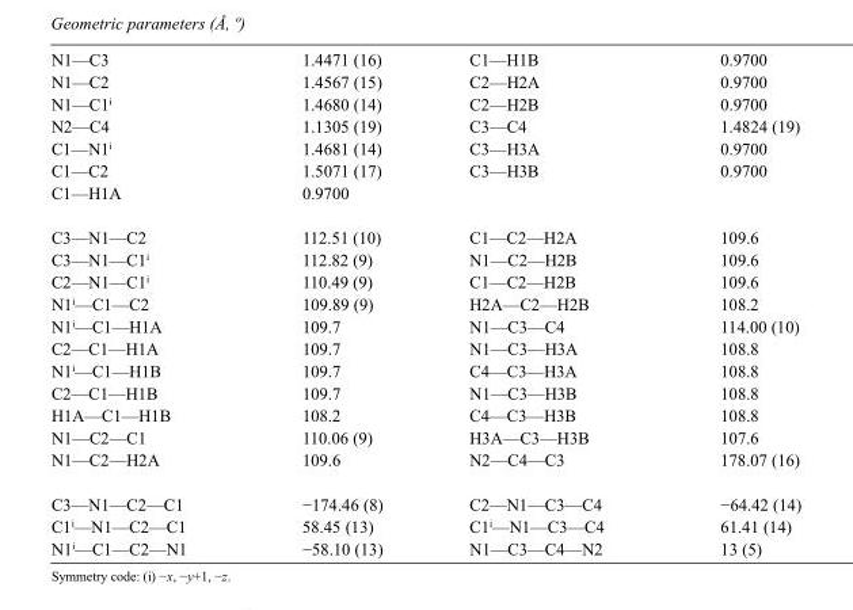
<table><tbody><tr><td>N1—C3</td><td>1.4471 (16)</td><td>C1—H1B</td><td>0.9700</td></tr><tr><td>N1—C2</td><td>1.4567 (15)</td><td>C2—H2A</td><td>0.9700</td></tr><tr><td>N1—C1<sup>i</sup></td><td>1.4680 (14)</td><td>C2—H2B</td><td>0.9700</td></tr><tr><td>N2—C4</td><td>1.1305 (19)</td><td>C3—C4</td><td>1.4824 (19)</td></tr><tr><td>C1—N1<sup>i</sup></td><td>1.4681 (14)</td><td>C3—H3A</td><td>0.9700</td></tr><tr><td>C1—C2</td><td>1.5071 (17)</td><td>C3—H3B</td><td>0.9700</td></tr><tr><td>C1—H1A</td><td>0.9700</td><td></td><td></td></tr><tr><td>C3—N1—C2</td><td>112.51 (10)</td><td>C1—C2—H2A</td><td>109.6</td></tr><tr><td>C3—N1—C1<sup>i</sup></td><td>112.82 (9)</td><td>N1—C2—H2B</td><td>109.6</td></tr><tr><td>C2—N1—C1<sup>i</sup></td><td>110.49 (9)</td><td>C1—C2—H2B</td><td>109.6</td></tr><tr><td>N1<sup>i</sup>—C1—C2</td><td>109.89 (9)</td><td>H2A—C2—H2B</td><td>108.2</td></tr><tr><td>N1<sup>i</sup>—C1—H1A</td><td>109.7</td><td>N1—C3—C4</td><td>114.00 (10)</td></tr><tr><td>C2—C1—H1A</td><td>109.7</td><td>N1—C3—H3A</td><td>108.8</td></tr><tr><td>N1<sup>i</sup>—C1—H1B</td><td>109.7</td><td>C4—C3—H3A</td><td>108.8</td></tr><tr><td>C2—C1—H1B</td><td>109.7</td><td>N1—C3—H3B</td><td>108.8</td></tr><tr><td>H1A—C1—H1B</td><td>108.2</td><td>C4—C3—H3B</td><td>108.8</td></tr><tr><td>N1—C2—C1</td><td>110.06 (9)</td><td>H3A—C3—H3B</td><td>107.6</td></tr><tr><td>N1—C2—H2A</td><td>109.6</td><td>N2—C4—C3</td><td>178.07 (16)</td></tr><tr><td>C3—N1—C2—C1</td><td>−174.46 (8)</td><td>C2—N1—C3—C4</td><td>−64.42 (14)</td></tr><tr><td>C1<sup>i</sup>—N1—C2—C1</td><td>58.45 (13)</td><td>C1<sup>i</sup>—N1—C3—C4</td><td>61.41 (14)</td></tr><tr><td>N1<sup>i</sup>—C1—C2—N1</td><td>−58.10 (13)</td><td>N1—C3—C4—N2</td><td>13 (5)</td></tr></tbody></table>